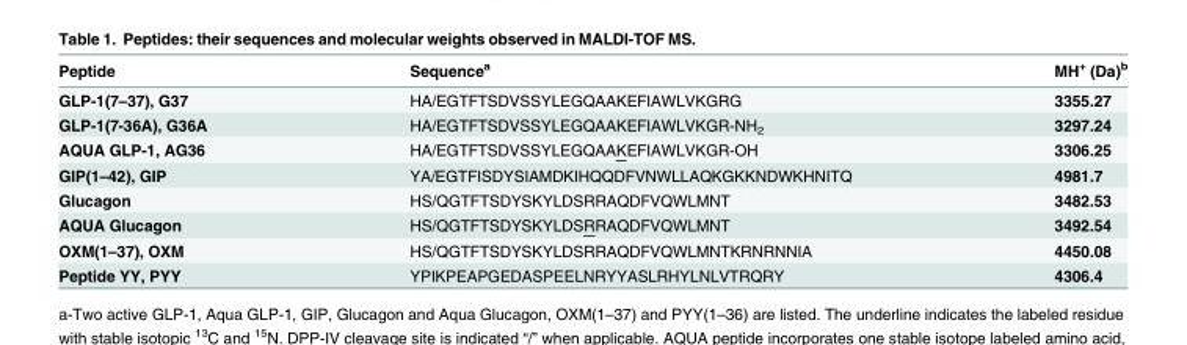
<table><thead><tr><td>Peptide</td><td>Sequence<sup>a</sup></td><td>MH<sup>+</sup> (Da)<sup>b</sup></td></tr></thead><tbody><tr><td>GLP-1(7–37), G37</td><td>HA/EGTFTSDVSSYLEGQAAKEFIAWLVKGRG</td><td>3355.27</td></tr><tr><td>GLP-1(7-36A), G36A</td><td>HA/EGTFTSDVSSYLEGQAAKEFIAWLVKGR-NH<sub>2</sub></td><td>3297.24</td></tr><tr><td>AQUA GLP-1, AG36</td><td>HA/EGTFTSDVSSYLEGQAAKEFIAWLVKGR-OH</td><td>3306.25</td></tr><tr><td>GIP(1–42), GIP</td><td>YA/EGTFISDYSIAMDKIHQQDFVNWLLAQKGKKNDWKHNITQ</td><td>4981.7</td></tr><tr><td>Glucagon</td><td>HS/QGTFTSDYSKYLDSRRAQDFVQWLMNT</td><td>3482.53</td></tr><tr><td>AQUA Glucagon</td><td>HS/QGTFTSDYSKYLDSRRAQDFVQWLMNT</td><td>3492.54</td></tr><tr><td>OXM(1–37), OXM</td><td>HS/QGTFTSDYSKYLDSRRAQDFVQWLMNTKRNRNNIA</td><td>4450.08</td></tr><tr><td>Peptide YY, PYY</td><td>YPIKPEAPGEDASPEELNRYYASLRHYLNLVTRQRY</td><td>4306.4</td></tr></tbody></table>